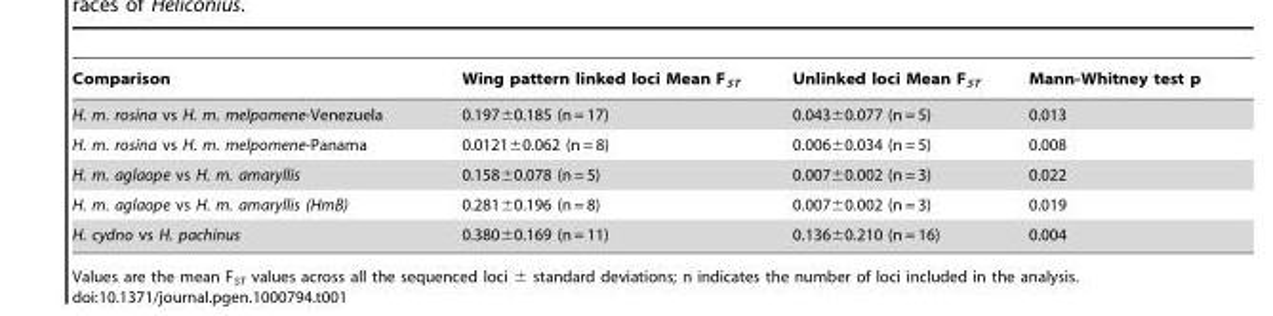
<table><thead><tr><td>Comparison</td><td>Wing pattern linked loci Mean F<sub>ST</sub></td><td>Unlinked loci Mean F<sub>ST</sub></td><td>Mann-Whitney test p</td></tr></thead><tbody><tr><td>H. m. rosina vs H. m. melpomene-Venezuela</td><td>0.197±0.185 (n = 17)</td><td>0.043±0.077 (n = 5)</td><td>0.013</td></tr><tr><td>H. m. rosina vs H. m. melpomene-Panama</td><td>0.0121±0.062 (n = 8)</td><td>0.006±0.034 (n = 5)</td><td>0.008</td></tr><tr><td>H. m. aglaope vs H. m. amaryllis</td><td>0.158±0.078 (n = 5)</td><td>0.007±0.002 (n = 3)</td><td>0.022</td></tr><tr><td>H. m. aglaope vs H. m. amaryllis (HmB)</td><td>0.281±0.196 (n = 8)</td><td>0.007±0.002 (n = 3)</td><td>0.019</td></tr><tr><td>H. cydno vs H. pachinus</td><td>0.380±0.169 (n = 11)</td><td>0.136±0.210 (n = 16)</td><td>0.004</td></tr></tbody></table>